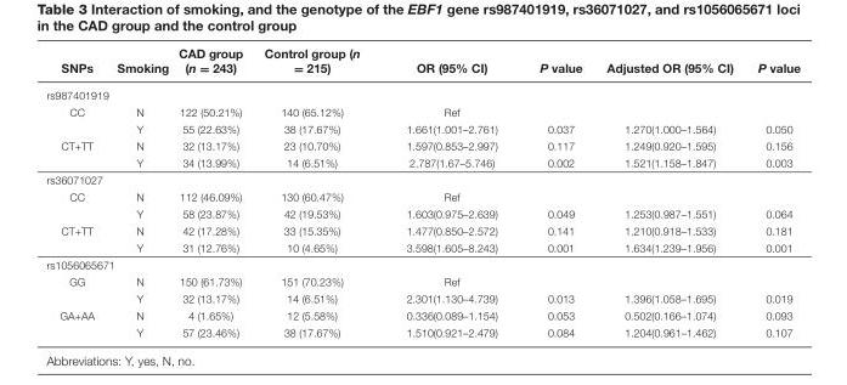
<table><thead><tr><td>SNPs</td><td>Smoking</td><td>CAD group (n = 243)</td><td>Control group (n = 215)</td><td>OR (95% CI)</td><td>P value</td><td>Adjusted OR (95% CI)</td><td>P value</td></tr></thead><tbody><tr><td colspan="8">rs987401919</td></tr><tr><td rowspan="2">CC</td><td>N</td><td>122 (50.21%)</td><td>140 (65.12%)</td><td>Ref</td><td></td><td></td><td></td></tr><tr><td>Y</td><td>55 (22.63%)</td><td>38 (17.67%)</td><td>1.661(1.001–2.761)</td><td>0.037</td><td>1.270(1.000–1.564)</td><td>0.050</td></tr><tr><td rowspan="2">CT+TT</td><td>N</td><td>32 (13.17%)</td><td>23 (10.70%)</td><td>1.597(0.853–2.997)</td><td>0.117</td><td>1.249(0.920–1.595)</td><td>0.156</td></tr><tr><td>Y</td><td>34 (13.99%)</td><td>14 (6.51%)</td><td>2.787(1.67–5.746)</td><td>0.002</td><td>1.521(1.158–1.847)</td><td>0.003</td></tr><tr><td colspan="8">rs36071027</td></tr><tr><td rowspan="2">CC</td><td>N</td><td>112 (46.09%)</td><td>130 (60.47%)</td><td>Ref</td><td></td><td></td><td></td></tr><tr><td>Y</td><td>58 (23.87%)</td><td>42 (19.53%)</td><td>1.603(0.975–2.639)</td><td>0.049</td><td>1.253(0.987–1.551)</td><td>0.064</td></tr><tr><td rowspan="2">CT+TT</td><td>N</td><td>42 (17.28%)</td><td>33 (15.35%)</td><td>1.477(0.850–2.572)</td><td>0.141</td><td>1.210(0.918–1.533)</td><td>0.181</td></tr><tr><td>Y</td><td>31 (12.76%)</td><td>10 (4.65%)</td><td>3.598(1.605–8.243)</td><td>0.001</td><td>1.634(1.239–1.956)</td><td>0.001</td></tr><tr><td colspan="8">rs1056065671</td></tr><tr><td rowspan="2">GG</td><td>N</td><td>150 (61.73%)</td><td>151 (70.23%)</td><td>Ref</td><td></td><td></td><td></td></tr><tr><td>Y</td><td>32 (13.17%)</td><td>14 (6.51%)</td><td>2.301(1.130–4.739)</td><td>0.013</td><td>1.396(1.058–1.695)</td><td>0.019</td></tr><tr><td rowspan="2">GA+AA</td><td>N</td><td>4 (1.65%)</td><td>12 (5.58%)</td><td>0.336(0.089–1.154)</td><td>0.053</td><td>0.502(0.166–1.074)</td><td>0.093</td></tr><tr><td>Y</td><td>57 (23.46%)</td><td>38 (17.67%)</td><td>1.510(0.921–2.479)</td><td>0.084</td><td>1.204(0.961–1.462)</td><td>0.107</td></tr></tbody></table>